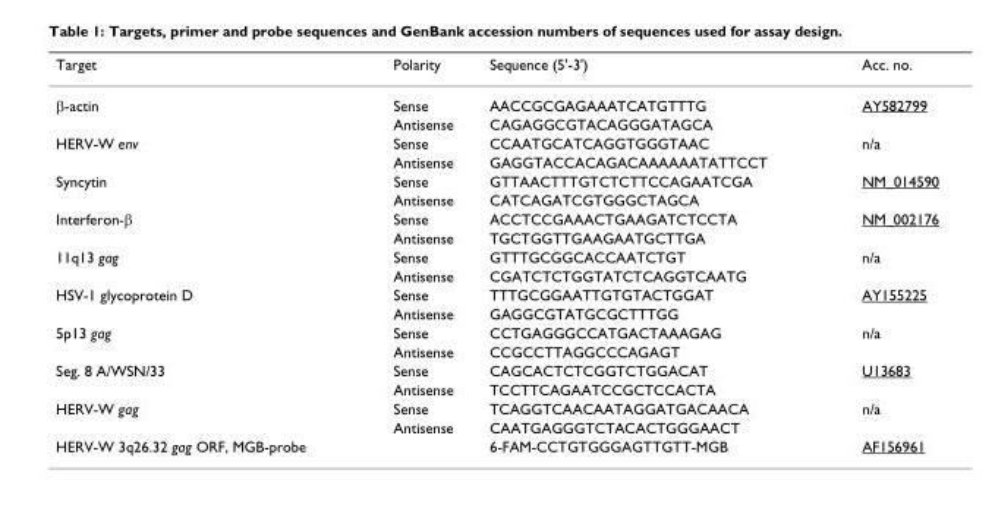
<table><thead><tr><td>Target</td><td>Polarity</td><td>Sequence (5&#x27;-3&#x27;)</td><td>Acc. no.</td></tr></thead><tbody><tr><td rowspan="2">β-actin</td><td>Sense</td><td>AACCGCGAGAAATCATGTTTG</td><td>AY582799</td></tr><tr><td>Antisense</td><td>CAGAGGCGTACAGGGATAGCA</td><td></td></tr><tr><td rowspan="2">HERV-W env</td><td>Sense</td><td>CCAATGCATCAGGTGGGTAAC</td><td>n/a</td></tr><tr><td>Antisense</td><td>GAGGTACCACAGACAAAAAATATTCCT</td><td></td></tr><tr><td rowspan="2">Syncytin</td><td>Sense</td><td>GTTAACTTTGTCTCTTCCAGAATCGA</td><td>NM_014590</td></tr><tr><td>Antisense</td><td>CATCAGATCGTGGGCTAGCA</td><td></td></tr><tr><td rowspan="2">Interferon-β</td><td>Sense</td><td>ACCTCCGAAACTGAAGATCTCCTA</td><td>NM_002176</td></tr><tr><td>Antisense</td><td>TGCTGGTTGAAGAATGCTTGA</td><td></td></tr><tr><td rowspan="2">11q13 gag</td><td>Sense</td><td>GTTTGCGGCACCAATCTGT</td><td>n/a</td></tr><tr><td>Antisense</td><td>CGATCTCTGGTATCTCAGGTCAATG</td><td></td></tr><tr><td rowspan="2">HSV-1 glycoprotein D</td><td>Sense</td><td>TTTGCGGAATTGTGTACTGGAT</td><td>AY155225</td></tr><tr><td>Antisense</td><td>GAGGCGTATGCGCTTTGG</td><td></td></tr><tr><td rowspan="2">5p13 gag</td><td>Sense</td><td>CCTGAGGGCCATGACTAAAGAG</td><td>n/a</td></tr><tr><td>Antisense</td><td>CCGCCTTAGGCCCAGAGT</td><td></td></tr><tr><td rowspan="2">Seg. 8 A/WSN/33</td><td>Sense</td><td>CAGCACTCTCGGTCTGGACAT</td><td>U13683</td></tr><tr><td>Antisense</td><td>TCCTTCAGAATCCGCTCCACTA</td><td></td></tr><tr><td rowspan="2">HERV-W gag</td><td>Sense</td><td>TCAGGTCAACAATAGGATGACAACA</td><td>n/a</td></tr><tr><td>Antisense</td><td>CAATGAGGGTCTACACTGGGAACT</td><td></td></tr><tr><td>HERV-W 3q26.32 gag ORF, MGB-probe</td><td></td><td>6-FAM-CCTGTGGGAGTTGTT-MGB</td><td>AF156961</td></tr></tbody></table>